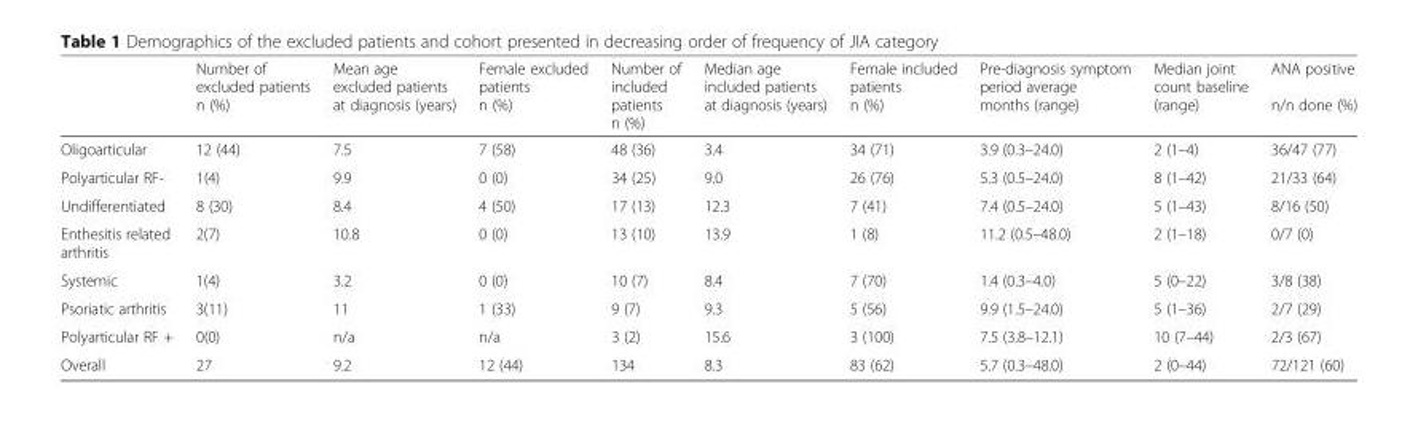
<table><thead><tr><td></td><td>Number of excluded patients n (%)</td><td>Mean age excluded patients at diagnosis (years)</td><td>Female excluded patients n (%)</td><td>Number of included patients n (%)</td><td>Median age included patients at diagnosis (years)</td><td>Female included patients n (%)</td><td>Pre-diagnosis symptom period average months (range)</td><td>Median joint count baseline (range)</td><td>ANA positive n/n done (%)</td></tr></thead><tbody><tr><td>Oligoarticular</td><td>12 (44)</td><td>7.5</td><td>7 (58)</td><td>48 (36)</td><td>3.4</td><td>34 (71)</td><td>3.9 (0.3–24.0)</td><td>2 (1–4)</td><td>36/47 (77)</td></tr><tr><td>Polyarticular RF-</td><td>1(4)</td><td>9.9</td><td>0 (0)</td><td>34 (25)</td><td>9.0</td><td>26 (76)</td><td>5.3 (0.5–24.0)</td><td>8 (1–42)</td><td>21/33 (64)</td></tr><tr><td>Undifferentiated</td><td>8 (30)</td><td>8.4</td><td>4 (50)</td><td>17 (13)</td><td>12.3</td><td>7 (41)</td><td>7.4 (0.5–24.0)</td><td>5 (1–43)</td><td>8/16 (50)</td></tr><tr><td>Enthesitis related arthritis</td><td>2(7)</td><td>10.8</td><td>0 (0)</td><td>13 (10)</td><td>13.9</td><td>1 (8)</td><td>11.2 (0.5–48.0)</td><td>2 (1–18)</td><td>0/7 (0)</td></tr><tr><td>Systemic</td><td>1(4)</td><td>3.2</td><td>0 (0)</td><td>10 (7)</td><td>8.4</td><td>7 (70)</td><td>1.4 (0.3–4.0)</td><td>5 (0–22)</td><td>3/8 (38)</td></tr><tr><td>Psoriatic arthritis</td><td>3(11)</td><td>11</td><td>1 (33)</td><td>9 (7)</td><td>9.3</td><td>5 (56)</td><td>9.9 (1.5–24.0)</td><td>5 (1–36)</td><td>2/7 (29)</td></tr><tr><td>Polyarticular RF +</td><td>0(0)</td><td>n/a</td><td>n/a</td><td>3 (2)</td><td>15.6</td><td>3 (100)</td><td>7.5 (3.8–12.1)</td><td>10 (7–44)</td><td>2/3 (67)</td></tr><tr><td>Overall</td><td>27</td><td>9.2</td><td>12 (44)</td><td>134</td><td>8.3</td><td>83 (62)</td><td>5.7 (0.3–48.0)</td><td>2 (0–44)</td><td>72/121 (60)</td></tr></tbody></table>